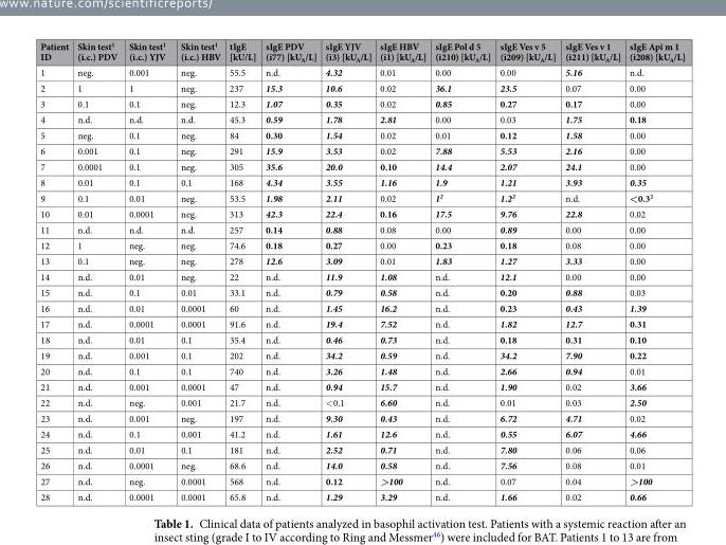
<table><thead><tr><td>Patient ID</td><td>Skin test<sup>1</sup> (i.c.) PDV</td><td>Skin test<sup>1</sup> (i.c.) YJV</td><td>Skin test<sup>1</sup> (i.c.) HBV</td><td>tIgE [kU/L]</td><td>sIgE PDV (i77) [kU<sub>A</sub>/L]</td><td>sIgE YJV (i3) [kU<sub>A</sub>/L]</td><td>sIgE HBV (i1) [kU<sub>A</sub>/L]</td><td>sIgE Pol d 5 (i210) [kU<sub>A</sub>/L]</td><td>sIgE Ves v 5 (i209) [kU<sub>A</sub>/L]</td><td>sIgE Ves v 1 (i211) [kU<sub>A</sub>/L]</td><td>sIgE Api m 1 (i208) [kU<sub>A</sub>/L]</td></tr></thead><tbody><tr><td>1</td><td>neg.</td><td>0.001</td><td>neg.</td><td>55.5</td><td>n.d.</td><td>4.32</td><td>0.01</td><td>0.00</td><td>0.00</td><td>5.16</td><td>n.d.</td></tr><tr><td>2</td><td>1</td><td>1</td><td>neg.</td><td>237</td><td>15.3</td><td>10.6</td><td>0.02</td><td>36.1</td><td>23.5</td><td>0.07</td><td>0.00</td></tr><tr><td>3</td><td>0.1</td><td>0.1</td><td>neg.</td><td>12.3</td><td>1.07</td><td>0.35</td><td>0.02</td><td>0.85</td><td>0.27</td><td>0.17</td><td>0.00</td></tr><tr><td>4</td><td>n.d.</td><td>n.d.</td><td>n.d.</td><td>45.3</td><td>0.59</td><td>1.78</td><td>2.81</td><td>0.00</td><td>0.03</td><td>1.75</td><td>0.18</td></tr><tr><td>5</td><td>neg.</td><td>0.1</td><td>neg.</td><td>84</td><td>0.30</td><td>1.54</td><td>0.02</td><td>0.01</td><td>0.12</td><td>1.58</td><td>0.00</td></tr><tr><td>6</td><td>0.001</td><td>0.1</td><td>neg.</td><td>291</td><td>15.9</td><td>3.53</td><td>0.02</td><td>7.88</td><td>5.53</td><td>2.16</td><td>0.00</td></tr><tr><td>7</td><td>0.0001</td><td>0.1</td><td>neg.</td><td>305</td><td>35.6</td><td>20.0</td><td>0.10</td><td>14.4</td><td>2.07</td><td>24.1</td><td>0.00</td></tr><tr><td>8</td><td>0.01</td><td>0.1</td><td>0.1</td><td>168</td><td>4.34</td><td>3.55</td><td>1.16</td><td>1.9</td><td>1.21</td><td>3.93</td><td>0.35</td></tr><tr><td>9</td><td>0.1</td><td>0.01</td><td>neg.</td><td>53.5</td><td>1.98</td><td>2.11</td><td>0.02</td><td>1<sup>2</sup></td><td>1.2<sup>2</sup></td><td>n.d.</td><td>&lt;0.3<sup>2</sup></td></tr><tr><td>10</td><td>0.01</td><td>0.0001</td><td>neg.</td><td>313</td><td>42.3</td><td>22.4</td><td>0.16</td><td>17.5</td><td>9.76</td><td>22.8</td><td>0.02</td></tr><tr><td>11</td><td>n.d.</td><td>n.d.</td><td>n.d.</td><td>257</td><td>0.14</td><td>0.88</td><td>0.08</td><td>0.00</td><td>0.89</td><td>0.00</td><td>0.00</td></tr><tr><td>12</td><td>1</td><td>neg.</td><td>neg.</td><td>74.6</td><td>0.18</td><td>0.27</td><td>0.00</td><td>0.23</td><td>0.18</td><td>0.08</td><td>0.00</td></tr><tr><td>13</td><td>0.1</td><td>neg.</td><td>neg.</td><td>278</td><td>12.6</td><td>3.09</td><td>0.01</td><td>1.83</td><td>1.27</td><td>3.33</td><td>0.00</td></tr><tr><td>14</td><td>n.d.</td><td>0.01</td><td>neg.</td><td>22</td><td>n.d.</td><td>11.9</td><td>1.08</td><td>n.d.</td><td>12.1</td><td>0.00</td><td>0.00</td></tr><tr><td>15</td><td>n.d.</td><td>0.1</td><td>0.01</td><td>33.1</td><td>n.d.</td><td>0.79</td><td>0.58</td><td>n.d.</td><td>0.20</td><td>0.88</td><td>0.03</td></tr><tr><td>16</td><td>n.d.</td><td>0.01</td><td>0.0001</td><td>60</td><td>n.d.</td><td>1.45</td><td>16.2</td><td>n.d.</td><td>0.23</td><td>0.43</td><td>1.39</td></tr><tr><td>17</td><td>n.d.</td><td>0.0001</td><td>0.0001</td><td>91.6</td><td>n.d.</td><td>19.4</td><td>7.52</td><td>n.d.</td><td>1.82</td><td>12.7</td><td>0.31</td></tr><tr><td>18</td><td>n.d.</td><td>0.01</td><td>0.1</td><td>35.4</td><td>n.d.</td><td>0.46</td><td>0.73</td><td>n.d.</td><td>0.18</td><td>0.31</td><td>0.10</td></tr><tr><td>19</td><td>n.d.</td><td>0.001</td><td>0.1</td><td>202</td><td>n.d.</td><td>34.2</td><td>0.59</td><td>n.d.</td><td>34.2</td><td>7.90</td><td>0.22</td></tr><tr><td>20</td><td>n.d.</td><td>0.1</td><td>0.1</td><td>740</td><td>n.d.</td><td>3.26</td><td>1.48</td><td>n.d.</td><td>2.66</td><td>0.94</td><td>0.01</td></tr><tr><td>21</td><td>n.d.</td><td>0.001</td><td>0.0001</td><td>47</td><td>n.d.</td><td>0.94</td><td>15.7</td><td>n.d.</td><td>1.90</td><td>0.02</td><td>3.66</td></tr><tr><td>22</td><td>n.d.</td><td>neg.</td><td>0.001</td><td>21.7</td><td>n.d.</td><td>&lt;0.1</td><td>6.60</td><td>n.d.</td><td>0.01</td><td>0.03</td><td>2.50</td></tr><tr><td>23</td><td>n.d.</td><td>0.001</td><td>neg.</td><td>197</td><td>n.d.</td><td>9.30</td><td>0.43</td><td>n.d.</td><td>6.72</td><td>4.71</td><td>0.02</td></tr><tr><td>24</td><td>n.d.</td><td>0.1</td><td>0.001</td><td>41.2</td><td>n.d.</td><td>1.61</td><td>12.6</td><td>n.d.</td><td>0.55</td><td>6.07</td><td>4.66</td></tr><tr><td>25</td><td>n.d.</td><td>0.01</td><td>0.1</td><td>181</td><td>n.d.</td><td>2.52</td><td>0.71</td><td>n.d.</td><td>7.80</td><td>0.06</td><td>0.06</td></tr><tr><td>26</td><td>n.d.</td><td>0.0001</td><td>neg.</td><td>68.6</td><td>n.d.</td><td>14.0</td><td>0.58</td><td>n.d.</td><td>7.56</td><td>0.08</td><td>0.01</td></tr><tr><td>27</td><td>n.d.</td><td>neg.</td><td>0.0001</td><td>568</td><td>n.d.</td><td>0.12</td><td>&gt;100</td><td>n.d.</td><td>0.07</td><td>0.04</td><td>&gt;100</td></tr><tr><td>28</td><td>n.d.</td><td>0.0001</td><td>0.0001</td><td>65.8</td><td>n.d.</td><td>1.29</td><td>3.29</td><td>n.d.</td><td>1.66</td><td>0.02</td><td>0.66</td></tr></tbody></table>